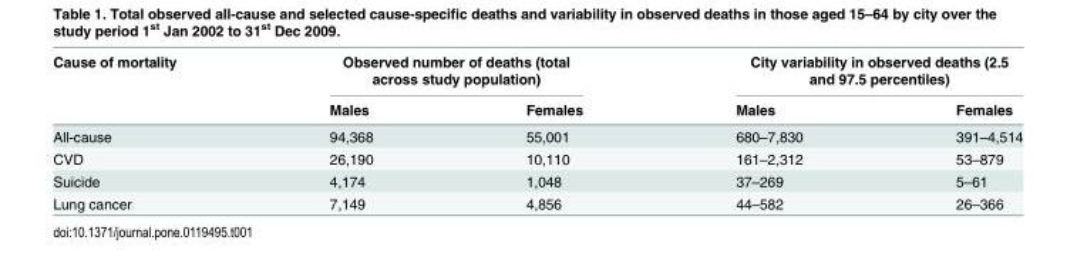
<table><thead><tr><td rowspan="2">Cause of mortality</td><td colspan="2">Observed number of deaths (total across study population)</td><td colspan="2">City variability in observed deaths (2.5 and 97.5 percentiles)</td></tr><tr><td>Males</td><td>Females</td><td>Males</td><td>Females</td></tr></thead><tbody><tr><td>All-cause</td><td>94,368</td><td>55,001</td><td>680–7,830</td><td>391–4,514</td></tr><tr><td>CVD</td><td>26,190</td><td>10,110</td><td>161–2,312</td><td>53–879</td></tr><tr><td>Suicide</td><td>4,174</td><td>1,048</td><td>37–269</td><td>5–61</td></tr><tr><td>Lung cancer</td><td>7,149</td><td>4,856</td><td>44–582</td><td>26–366</td></tr></tbody></table>